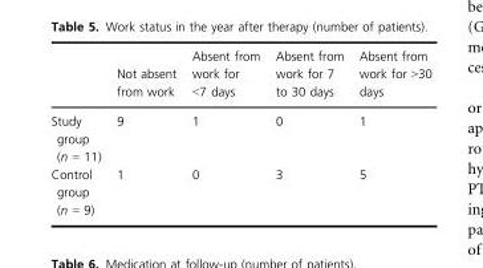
<table><thead><tr><td></td><td>Not absent from work</td><td>Absent from work for &lt;7 days</td><td>Absent from work for 7 to 30 days</td><td>Absent from work for &gt;30 days</td></tr></thead><tbody><tr><td>Study group (n = 11)</td><td>9</td><td>1</td><td>0</td><td>1</td></tr><tr><td>Control group (n = 9)</td><td>1</td><td>0</td><td>3</td><td>5</td></tr></tbody></table>